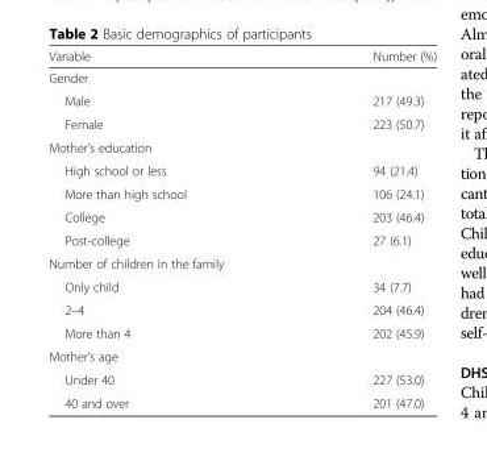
<table><thead><tr><td>Variable</td><td>Number (%)</td></tr></thead><tbody><tr><td colspan="2">Gender</td></tr><tr><td>Male</td><td>217 (49.3)</td></tr><tr><td>Female</td><td>223 (50.7)</td></tr><tr><td colspan="2">Mother’s education</td></tr><tr><td>High school or less</td><td>94 (21.4)</td></tr><tr><td>More than high school</td><td>106 (24.1)</td></tr><tr><td>College</td><td>203 (46.4)</td></tr><tr><td>Post-college</td><td>27 (6.1)</td></tr><tr><td colspan="2">Number of children in the family</td></tr><tr><td>Only child</td><td>34 (7.7)</td></tr><tr><td>2–4</td><td>204 (46.4)</td></tr><tr><td>More than 4</td><td>202 (45.9)</td></tr><tr><td colspan="2">Mother’s age</td></tr><tr><td>Under 40</td><td>227 (53.0)</td></tr><tr><td>40 and over</td><td>201 (47.0)</td></tr></tbody></table>